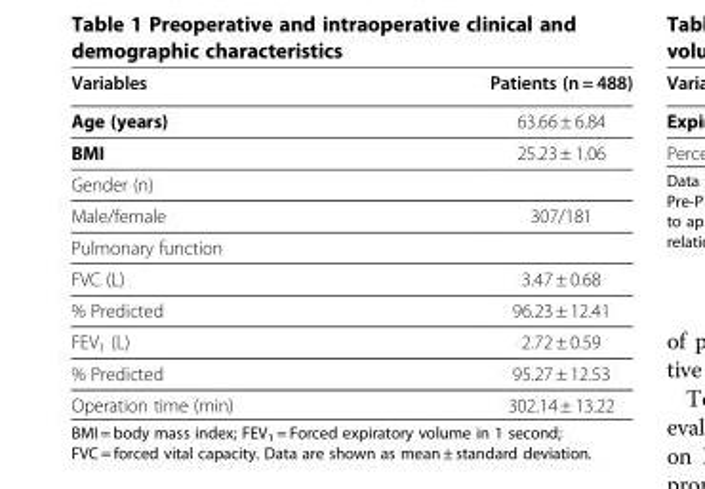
<table><thead><tr><td>Variables</td><td>Patients (n = 488)</td></tr></thead><tbody><tr><td>Age (years)</td><td>63.66 ± 6.84</td></tr><tr><td>BMI</td><td>25.23 ± 1.06</td></tr><tr><td colspan="2">Gender (n)</td></tr><tr><td>Male/female</td><td>307/181</td></tr><tr><td colspan="2">Pulmonary function</td></tr><tr><td>FVC (L)</td><td>3.47 ± 0.68</td></tr><tr><td>% Predicted</td><td>96.23 ± 12.41</td></tr><tr><td>FEV<sub>1</sub> (L)</td><td>2.72 ± 0.59</td></tr><tr><td>% Predicted</td><td>95.27 ± 12.53</td></tr><tr><td>Operation time (min)</td><td>302.14 ± 13.22</td></tr></tbody></table>